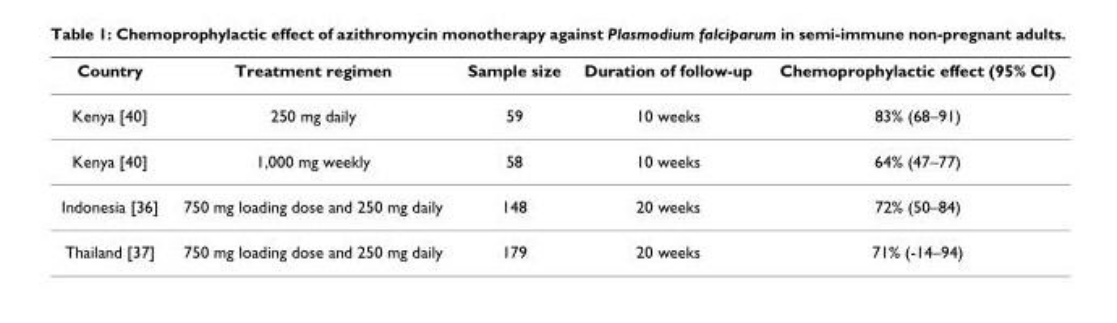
<table><thead><tr><td>Country</td><td>Treatment regimen</td><td>Sample size</td><td>Duration of follow-up</td><td>Chemoprophylactic effect (95% CI)</td></tr></thead><tbody><tr><td>Kenya [40]</td><td>250 mg daily</td><td>59</td><td>10 weeks</td><td>83% (68–91)</td></tr><tr><td>Kenya [40]</td><td>1,000 mg weekly</td><td>58</td><td>10 weeks</td><td>64% (47–77)</td></tr><tr><td>Indonesia [36]</td><td>750 mg loading dose and 250 mg daily</td><td>148</td><td>20 weeks</td><td>72% (50–84)</td></tr><tr><td>Thailand [37]</td><td>750 mg loading dose and 250 mg daily</td><td>179</td><td>20 weeks</td><td>71% (-14–94)</td></tr></tbody></table>